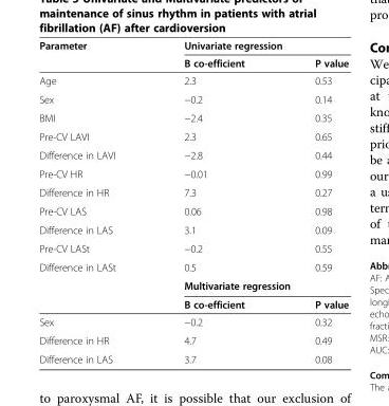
<table><thead><tr><td rowspan="2">Parameter</td><td colspan="2">Univariate regression</td></tr><tr><td>B co-efficient</td><td>P value</td></tr></thead><tbody><tr><td>Age</td><td>2.3</td><td>0.53</td></tr><tr><td>Sex</td><td>−0.2</td><td>0.14</td></tr><tr><td>BMI</td><td>−2.4</td><td>0.35</td></tr><tr><td>Pre-CV LAVI</td><td>2.3</td><td>0.65</td></tr><tr><td>Difference in LAVI</td><td>−2.8</td><td>0.44</td></tr><tr><td>Pre-CV HR</td><td>−0.01</td><td>0.99</td></tr><tr><td>Difference in HR</td><td>7.3</td><td>0.27</td></tr><tr><td>Pre-CV LAS</td><td>0.06</td><td>0.98</td></tr><tr><td>Difference in LAS</td><td>3.1</td><td>0.09</td></tr><tr><td>Pre-CV LASt</td><td>−0.2</td><td>0.55</td></tr><tr><td rowspan="3">Difference in LASt</td><td>0.5</td><td>0.59</td></tr><tr><td colspan="2">Multivariate regression</td></tr><tr><td>B co-efficient</td><td>P value</td></tr><tr><td>Sex</td><td>−0.2</td><td>0.32</td></tr><tr><td>Difference in HR</td><td>4.7</td><td>0.49</td></tr><tr><td>Difference in LAS</td><td>3.7</td><td>0.08</td></tr></tbody></table>